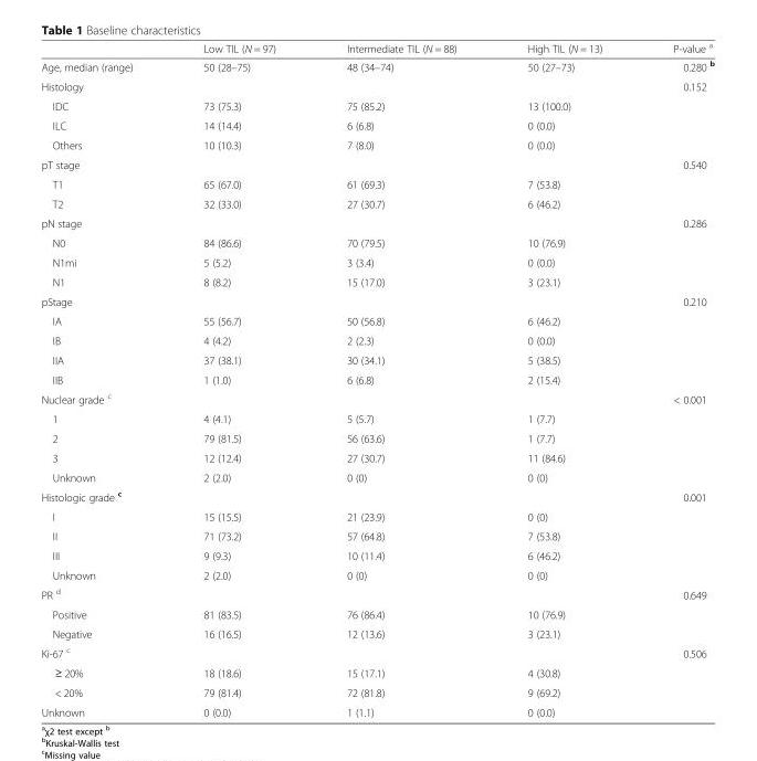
<table><thead><tr><td></td><td>Low TIL (N = 97)</td><td>Intermediate TIL (N = 88)</td><td>High TIL (N = 13)</td><td>P-value <sup>a</sup></td></tr></thead><tbody><tr><td>Age, median (range)</td><td>50 (28–75)</td><td>48 (34–74)</td><td>50 (27–73)</td><td>0.280 <sup>b</sup></td></tr><tr><td>Histology</td><td></td><td></td><td></td><td>0.152</td></tr><tr><td>IDC</td><td>73 (75.3)</td><td>75 (85.2)</td><td>13 (100.0)</td><td></td></tr><tr><td>ILC</td><td>14 (14.4)</td><td>6 (6.8)</td><td>0 (0.0)</td><td></td></tr><tr><td>Others</td><td>10 (10.3)</td><td>7 (8.0)</td><td>0 (0.0)</td><td></td></tr><tr><td>pT stage</td><td></td><td></td><td></td><td>0.540</td></tr><tr><td>T1</td><td>65 (67.0)</td><td>61 (69.3)</td><td>7 (53.8)</td><td></td></tr><tr><td>T2</td><td>32 (33.0)</td><td>27 (30.7)</td><td>6 (46.2)</td><td></td></tr><tr><td>pN stage</td><td></td><td></td><td></td><td>0.286</td></tr><tr><td>N0</td><td>84 (86.6)</td><td>70 (79.5)</td><td>10 (76.9)</td><td></td></tr><tr><td>N1mi</td><td>5 (5.2)</td><td>3 (3.4)</td><td>0 (0.0)</td><td></td></tr><tr><td>N1</td><td>8 (8.2)</td><td>15 (17.0)</td><td>3 (23.1)</td><td></td></tr><tr><td>pStage</td><td></td><td></td><td></td><td>0.210</td></tr><tr><td>IA</td><td>55 (56.7)</td><td>50 (56.8)</td><td>6 (46.2)</td><td></td></tr><tr><td>IB</td><td>4 (4.2)</td><td>2 (2.3)</td><td>0 (0.0)</td><td></td></tr><tr><td>IIA</td><td>37 (38.1)</td><td>30 (34.1)</td><td>5 (38.5)</td><td></td></tr><tr><td>IIB</td><td>1 (1.0)</td><td>6 (6.8)</td><td>2 (15.4)</td><td></td></tr><tr><td>Nuclear grade <sup>c</sup></td><td></td><td></td><td></td><td>&lt; 0.001</td></tr><tr><td>1</td><td>4 (4.1)</td><td>5 (5.7)</td><td>1 (7.7)</td><td></td></tr><tr><td>2</td><td>79 (81.5)</td><td>56 (63.6)</td><td>1 (7.7)</td><td></td></tr><tr><td>3</td><td>12 (12.4)</td><td>27 (30.7)</td><td>11 (84.6)</td><td></td></tr><tr><td>Unknown</td><td>2 (2.0)</td><td>0 (0)</td><td>0 (0)</td><td></td></tr><tr><td>Histologic grade <sup>c</sup></td><td></td><td></td><td></td><td>0.001</td></tr><tr><td>I</td><td>15 (15.5)</td><td>21 (23.9)</td><td>0 (0)</td><td></td></tr><tr><td>II</td><td>71 (73.2)</td><td>57 (64.8)</td><td>7 (53.8)</td><td></td></tr><tr><td>III</td><td>9 (9.3)</td><td>10 (11.4)</td><td>6 (46.2)</td><td></td></tr><tr><td>Unknown</td><td>2 (2.0)</td><td>0 (0)</td><td>0 (0)</td><td></td></tr><tr><td>PR <sup>d</sup></td><td></td><td></td><td></td><td>0.649</td></tr><tr><td>Positive</td><td>81 (83.5)</td><td>76 (86.4)</td><td>10 (76.9)</td><td></td></tr><tr><td>Negative</td><td>16 (16.5)</td><td>12 (13.6)</td><td>3 (23.1)</td><td></td></tr><tr><td>Ki-67 <sup>c</sup></td><td></td><td></td><td></td><td>0.506</td></tr><tr><td>≥ 20%</td><td>18 (18.6)</td><td>15 (17.1)</td><td>4 (30.8)</td><td></td></tr><tr><td>&lt; 20%</td><td>79 (81.4)</td><td>72 (81.8)</td><td>9 (69.2)</td><td></td></tr><tr><td>Unknown</td><td>0 (0.0)</td><td>1 (1.1)</td><td>0 (0.0)</td><td></td></tr></tbody></table>